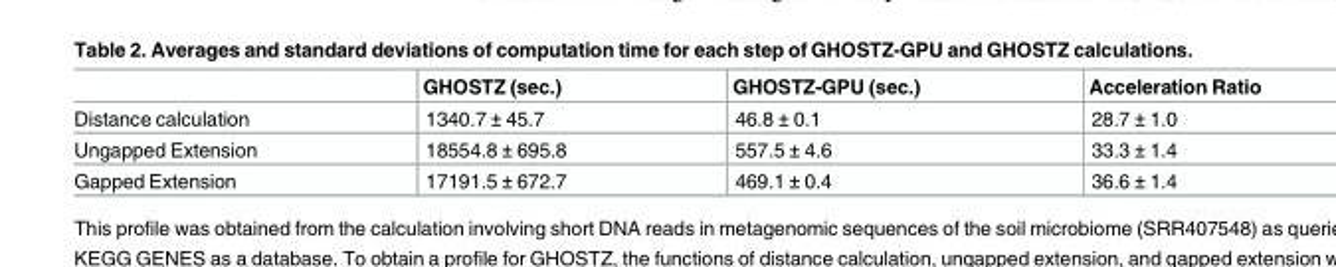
<table><thead><tr><td></td><td>GHOSTZ (sec.)</td><td>GHOSTZ-GPU (sec.)</td><td>Acceleration Ratio</td></tr></thead><tbody><tr><td>Distance calculation</td><td>1340.7 ± 45.7</td><td>46.8 ± 0.1</td><td>28.7 ± 1.0</td></tr><tr><td>Ungapped Extension</td><td>18554.8 ± 695.8</td><td>557.5 ± 4.6</td><td>33.3 ± 1.4</td></tr><tr><td>Gapped Extension</td><td>17191.5 ± 672.7</td><td>469.1 ± 0.4</td><td>36.6 ± 1.4</td></tr></tbody></table>